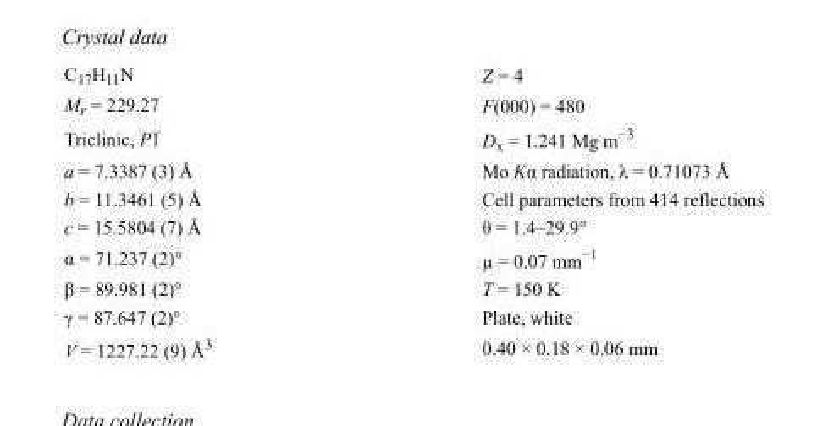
<table><tbody><tr><td>C<sub>17</sub>H<sub>11</sub>N</td><td>Z = 4</td></tr><tr><td>M<sub>r</sub> = 229.27</td><td>F(000) = 480</td></tr><tr><td>Triclinic, P1</td><td>D<sub>x</sub> = 1.241 Mg m<sup>−3</sup></td></tr><tr><td>a = 7.3387 (3) Å</td><td>Mo Kα radiation, λ = 0.71073 Å</td></tr><tr><td>b = 11.3461 (5) Å</td><td>Cell parameters from 414 reflections</td></tr><tr><td>c = 15.5804 (7) Å</td><td>θ = 1.4–29.9°</td></tr><tr><td>α = 71.237 (2)°</td><td>µ = 0.07 mm<sup>−1</sup></td></tr><tr><td>β = 89.981 (2)°</td><td>T = 150 K</td></tr><tr><td>γ = 87.647 (2)°</td><td>Plate, white</td></tr><tr><td>V = 1227.22 (9) Å<sup>3</sup></td><td>0.40 × 0.18 × 0.06 mm</td></tr></tbody></table>